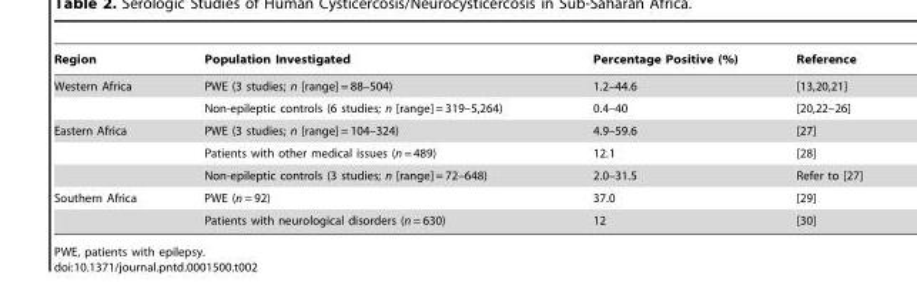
<table><thead><tr><td>Region</td><td>Population Investigated</td><td>Percentage Positive (%)</td><td>Reference</td></tr></thead><tbody><tr><td rowspan="2">Western Africa</td><td>PWE (3 studies; n [range] = 88–504)</td><td>1.2–44.6</td><td>[13,20,21]</td></tr><tr><td>Non-epileptic controls (6 studies; n [range] = 319–5,264)</td><td>0.4–40</td><td>[20,22–26]</td></tr><tr><td rowspan="3">Eastern Africa</td><td>PWE (3 studies; n [range] = 104–324)</td><td>4.9–59.6</td><td>[27]</td></tr><tr><td>Patients with other medical issues (n = 489)</td><td>12.1</td><td>[28]</td></tr><tr><td>Non-epileptic controls (3 studies; n [range] = 72–648)</td><td>2.0–31.5</td><td>Refer to [27]</td></tr><tr><td rowspan="2">Southern Africa</td><td>PWE (n = 92)</td><td>37.0</td><td>[29]</td></tr><tr><td>Patients with neurological disorders (n = 630)</td><td>12</td><td>[30]</td></tr></tbody></table>